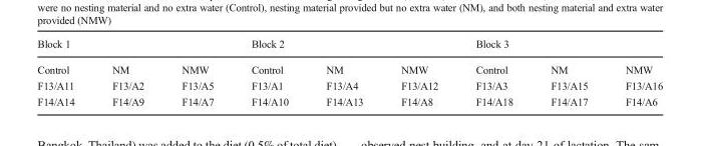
<table><thead><tr><td colspan="3">Block 1</td><td colspan="3">Block 2</td><td colspan="3">Block 3</td></tr><tr><td>Control</td><td>NM</td><td>NMW</td><td>Control</td><td>NM</td><td>NMW</td><td>Control</td><td>NM</td><td>NMW</td></tr></thead><tbody><tr><td>F13/A11</td><td>F13/A2</td><td>F13/A5</td><td>F13/A1</td><td>F13/A4</td><td>F13/A12</td><td>F13/A3</td><td>F13/A15</td><td>F13/A16</td></tr><tr><td>F14/A14</td><td>F14/A9</td><td>F14/A7</td><td>F14/A10</td><td>F14/A13</td><td>F14/A8</td><td>F14/A18</td><td>F14/A17</td><td>F14/A6</td></tr></tbody></table>